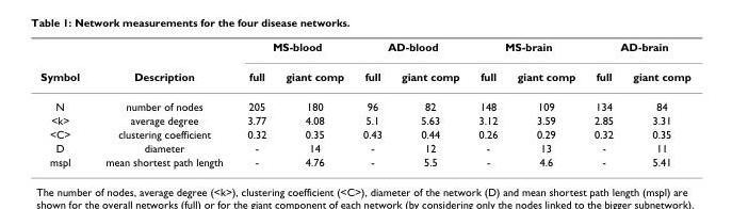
<table><thead><tr><td rowspan="2">Symbol</td><td rowspan="2">Description</td><td colspan="2">MS-blood</td><td colspan="2">AD-blood</td><td colspan="2">MS-brain</td><td colspan="2">AD-brain</td></tr><tr><td>full</td><td>giant comp</td><td>full</td><td>giant comp</td><td>full</td><td>giant comp</td><td>full</td><td>giant comp</td></tr></thead><tbody><tr><td>N</td><td>number of nodes</td><td>205</td><td>180</td><td>96</td><td>82</td><td>148</td><td>109</td><td>134</td><td>84</td></tr><tr><td>&lt;k&gt;</td><td>average degree</td><td>3.77</td><td>4.08</td><td>5.1</td><td>5.63</td><td>3.12</td><td>3.59</td><td>2.85</td><td>3.31</td></tr><tr><td>&lt;C&gt;</td><td>clustering coefficient</td><td>0.32</td><td>0.35</td><td>0.43</td><td>0.44</td><td>0.26</td><td>0.29</td><td>0.32</td><td>0.35</td></tr><tr><td>D</td><td>diameter</td><td>-</td><td>14</td><td>-</td><td>12</td><td>-</td><td>13</td><td>-</td><td>11</td></tr><tr><td>mspl</td><td>mean shortest path length</td><td>-</td><td>4.76</td><td>-</td><td>5.5</td><td>-</td><td>4.6</td><td>-</td><td>5.41</td></tr></tbody></table>